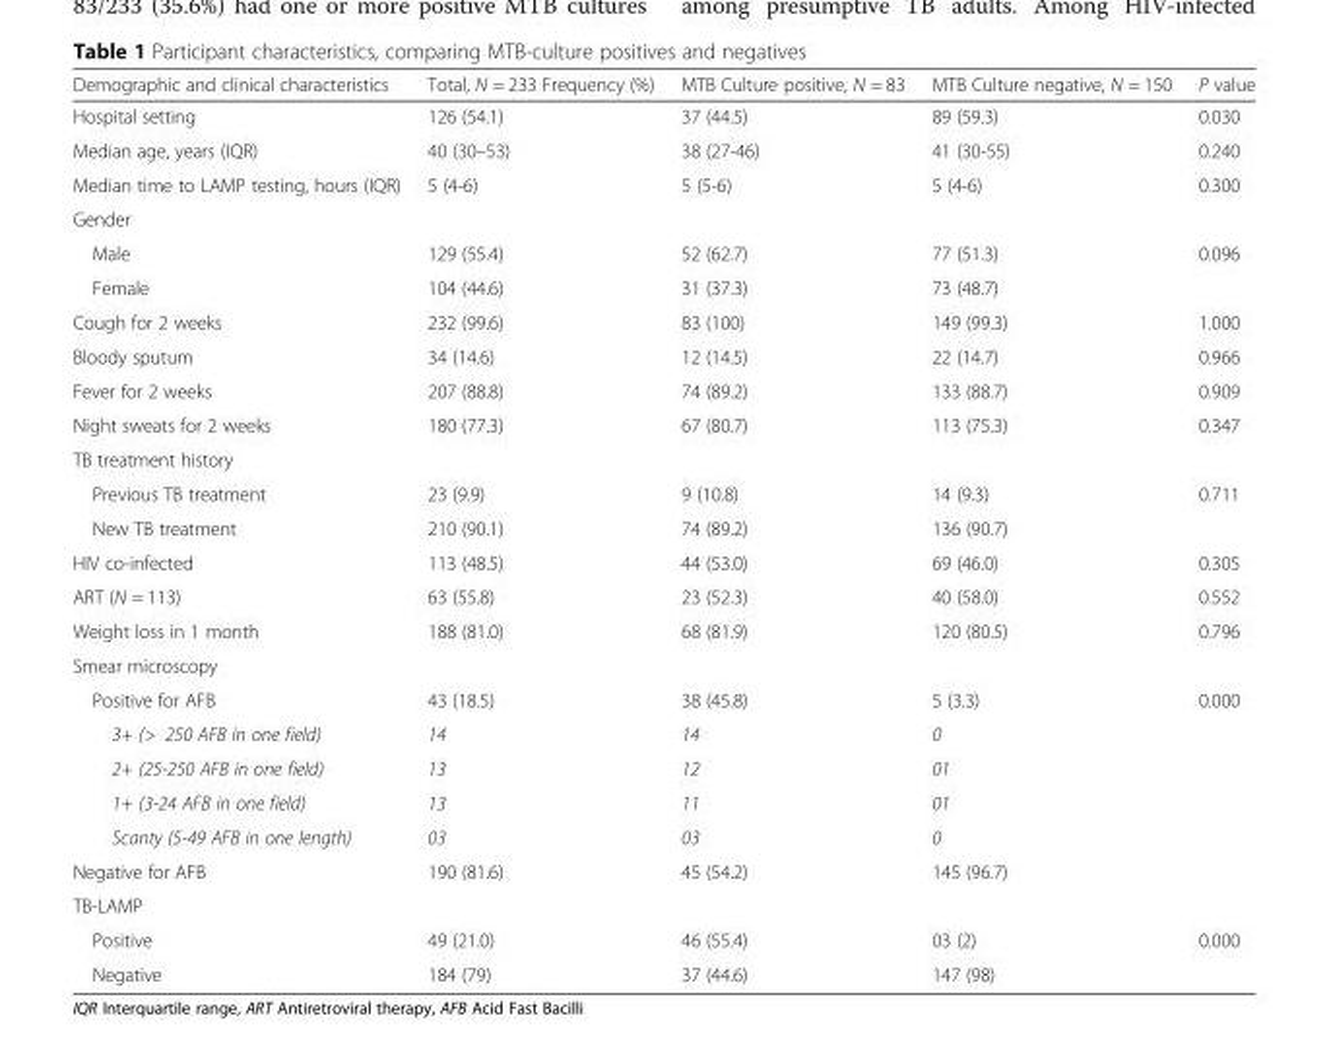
<table><thead><tr><td>Demographic and clinical characteristics</td><td>Total, N = 233 Frequency (%)</td><td>MTB Culture positive, N = 83</td><td>MTB Culture negative, N = 150</td><td>P value</td></tr></thead><tbody><tr><td>Hospital setting</td><td>126 (54.1)</td><td>37 (44.5)</td><td>89 (59.3)</td><td>0.030</td></tr><tr><td>Median age, years (IQR)</td><td>40 (30–53)</td><td>38 (27-46)</td><td>41 (30-55)</td><td>0.240</td></tr><tr><td>Median time to LAMP testing, hours (IQR)</td><td>5 (4-6)</td><td>5 (5-6)</td><td>5 (4-6)</td><td>0.300</td></tr><tr><td colspan="5">Gender</td></tr><tr><td>Male</td><td>129 (55.4)</td><td>52 (62.7)</td><td>77 (51.3)</td><td>0.096</td></tr><tr><td>Female</td><td>104 (44.6)</td><td>31 (37.3)</td><td>73 (48.7)</td><td></td></tr><tr><td>Cough for 2 weeks</td><td>232 (99.6)</td><td>83 (100)</td><td>149 (99.3)</td><td>1.000</td></tr><tr><td>Bloody sputum</td><td>34 (14.6)</td><td>12 (14.5)</td><td>22 (14.7)</td><td>0.966</td></tr><tr><td>Fever for 2 weeks</td><td>207 (88.8)</td><td>74 (89.2)</td><td>133 (88.7)</td><td>0.909</td></tr><tr><td>Night sweats for 2 weeks</td><td>180 (77.3)</td><td>67 (80.7)</td><td>113 (75.3)</td><td>0.347</td></tr><tr><td colspan="5">TB treatment history</td></tr><tr><td>Previous TB treatment</td><td>23 (9.9)</td><td>9 (10.8)</td><td>14 (9.3)</td><td>0.711</td></tr><tr><td>New TB treatment</td><td>210 (90.1)</td><td>74 (89.2)</td><td>136 (90.7)</td><td></td></tr><tr><td>HIV co-infected</td><td>113 (48.5)</td><td>44 (53.0)</td><td>69 (46.0)</td><td>0.305</td></tr><tr><td>ART (N = 113)</td><td>63 (55.8)</td><td>23 (52.3)</td><td>40 (58.0)</td><td>0.552</td></tr><tr><td>Weight loss in 1 month</td><td>188 (81.0)</td><td>68 (81.9)</td><td>120 (80.5)</td><td>0.796</td></tr><tr><td colspan="5">Smear microscopy</td></tr><tr><td>Positive for AFB</td><td>43 (18.5)</td><td>38 (45.8)</td><td>5 (3.3)</td><td>0.000</td></tr><tr><td>3+ (&gt; 250 AFB in one field)</td><td>14</td><td>14</td><td>0</td><td></td></tr><tr><td>2+ (25-250 AFB in one field)</td><td>13</td><td>12</td><td>01</td><td></td></tr><tr><td>1+ (3-24 AFB in one field)</td><td>13</td><td>11</td><td>01</td><td></td></tr><tr><td>Scanty (5-49 AFB in one length)</td><td>03</td><td>03</td><td>0</td><td></td></tr><tr><td>Negative for AFB</td><td>190 (81.6)</td><td>45 (54.2)</td><td>145 (96.7)</td><td></td></tr><tr><td colspan="5">TB-LAMP</td></tr><tr><td>Positive</td><td>49 (21.0)</td><td>46 (55.4)</td><td>03 (2)</td><td>0.000</td></tr><tr><td>Negative</td><td>184 (79)</td><td>37 (44.6)</td><td>147 (98)</td><td></td></tr></tbody></table>